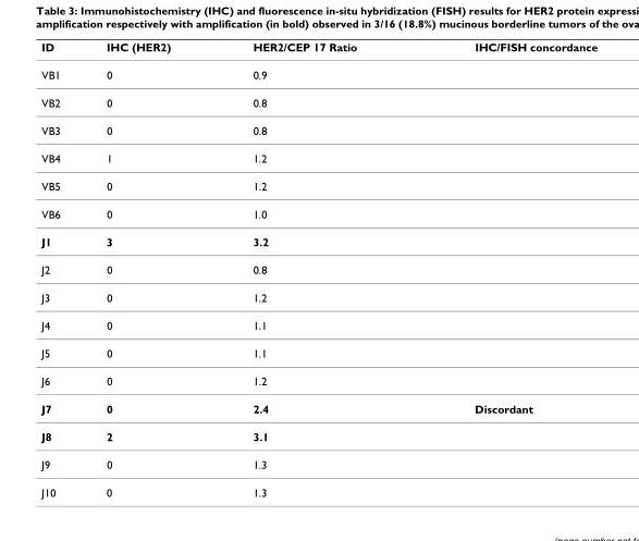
<table><thead><tr><td>ID</td><td>IHC (HER2)</td><td>HER2/CEP 17 Ratio</td><td>IHC/FISH concordance</td></tr></thead><tbody><tr><td>VB1</td><td>0</td><td>0.9</td><td></td></tr><tr><td>VB2</td><td>0</td><td>0.8</td><td></td></tr><tr><td>VB3</td><td>0</td><td>0.8</td><td></td></tr><tr><td>VB4</td><td>1</td><td>1.2</td><td></td></tr><tr><td>VB5</td><td>0</td><td>1.2</td><td></td></tr><tr><td>VB6</td><td>0</td><td>1.0</td><td></td></tr><tr><td>J1</td><td>3</td><td>3.2</td><td></td></tr><tr><td>J2</td><td>0</td><td>0.8</td><td></td></tr><tr><td>J3</td><td>0</td><td>1.2</td><td></td></tr><tr><td>J4</td><td>0</td><td>1.1</td><td></td></tr><tr><td>J5</td><td>0</td><td>1.1</td><td></td></tr><tr><td>J6</td><td>0</td><td>1.2</td><td></td></tr><tr><td>J7</td><td>0</td><td>2.4</td><td>Discordant</td></tr><tr><td>J8</td><td>2</td><td>3.1</td><td></td></tr><tr><td>J9</td><td>0</td><td>1.3</td><td></td></tr><tr><td>J10</td><td>0</td><td>1.3</td><td></td></tr></tbody></table>